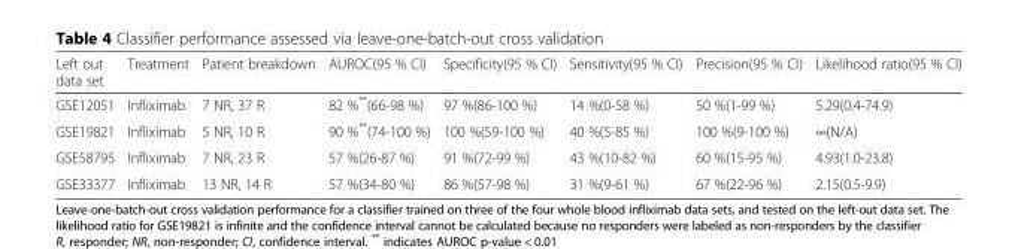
<table><thead><tr><td>Left out data set</td><td>Treatment</td><td>Patient breakdown</td><td>AUROC(95 % CI)</td><td>Specificity(95 % CI)</td><td>Sensitivity(95 % CI)</td><td>Precision(95 % CI)</td><td>Likelihood ratio(95 % CI)</td></tr></thead><tbody><tr><td>GSE12051</td><td>Infliximab</td><td>7 NR, 37 R</td><td>82 %**(66-98 %)</td><td>97 %(86-100 %)</td><td>14 %(0-58 %)</td><td>50 %(1-99 %)</td><td>5.29(0.4-74.9)</td></tr><tr><td>GSE19821</td><td>Infliximab</td><td>5 NR, 10 R</td><td>90 %**(74-100 %)</td><td>100 %(59-100 %)</td><td>40 %(5-85 %)</td><td>100 %(9-100 %)</td><td>∞(N/A)</td></tr><tr><td>GSE58795</td><td>Infliximab</td><td>7 NR, 23 R</td><td>57 %(26-87 %)</td><td>91 %(72-99 %)</td><td>43 %(10-82 %)</td><td>60 %(15-95 %)</td><td>4.93(1.0-23.8)</td></tr><tr><td>GSE33377</td><td>Infliximab</td><td>13 NR, 14 R</td><td>57 %(34-80 %)</td><td>86 %(57-98 %)</td><td>31 %(9-61 %)</td><td>67 %(22-96 %)</td><td>2.15(0.5-9.9)</td></tr></tbody></table>